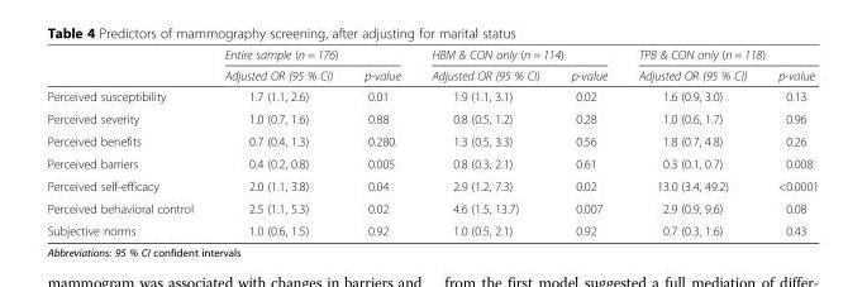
<table><thead><tr><td rowspan="2"></td><td colspan="2">Entire sample (n = 176)</td><td colspan="2">HBM &amp; CON only (n = 114)</td><td colspan="2">TPB &amp; CON only (n = 118)</td></tr><tr><td>Adjusted OR (95 % CI)</td><td>p-value</td><td>Adjusted OR (95 % CI)</td><td>p-value</td><td>Adjusted OR (95 % CI)</td><td>p-value</td></tr></thead><tbody><tr><td>Perceived susceptibility</td><td>1.7 (1.1, 2.6)</td><td>0.01</td><td>1.9 (1.1, 3.1)</td><td>0.02</td><td>1.6 (0.9, 3.0)</td><td>0.13</td></tr><tr><td>Perceived severity</td><td>1.0 (0.7, 1.6)</td><td>0.88</td><td>0.8 (0.5, 1.2)</td><td>0.28</td><td>1.0 (0.6, 1.7)</td><td>0.96</td></tr><tr><td>Perceived benefits</td><td>0.7 (0.4, 1.3)</td><td>0.280.</td><td>1.3 (0.5, 3.3)</td><td>0.56</td><td>1.8 (0.7, 4.8)</td><td>0.26</td></tr><tr><td>Perceived barriers</td><td>0.4 (0.2, 0.8)</td><td>0.005</td><td>0.8 (0.3, 2.1)</td><td>0.61</td><td>0.3 (0.1, 0.7)</td><td>0.008</td></tr><tr><td>Perceived self-efficacy</td><td>2.0 (1.1, 3.8)</td><td>0.04</td><td>2.9 (1.2, 7.3)</td><td>0.02</td><td>13.0 (3.4, 49.2)</td><td>&lt;0.0001</td></tr><tr><td>Perceived behavioral control</td><td>2.5 (1.1, 5.3)</td><td>0.02</td><td>4.6 (1.5, 13.7)</td><td>0.007</td><td>2.9 (0.9, 9.6)</td><td>0.08</td></tr><tr><td>Subjective norms</td><td>1.0 (0.6, 1.5)</td><td>0.92</td><td>1.0 (0.5, 2.1)</td><td>0.92</td><td>0.7 (0.3, 1.6)</td><td>0.43</td></tr></tbody></table>